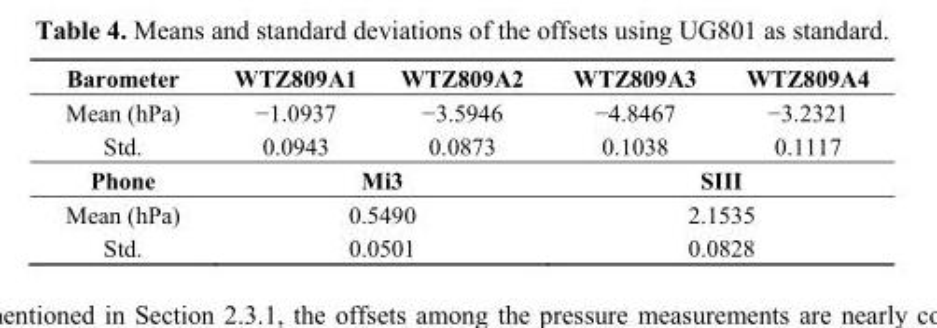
<table><tbody><tr><td>Barometer</td><td>WTZ809A1</td><td>WTZ809A2</td><td>WTZ809A3</td><td>WTZ809A4</td></tr><tr><td>Mean (hPa)</td><td>−1.0937</td><td>−3.5946</td><td>−4.8467</td><td>−3.2321</td></tr><tr><td>Std.</td><td>0.0943</td><td>0.0873</td><td>0.1038</td><td>0.1117</td></tr><tr><td>Phone</td><td colspan="2">Mi3</td><td colspan="2">SIII</td></tr><tr><td>Mean (hPa)</td><td colspan="2">0.5490</td><td colspan="2">2.1535</td></tr><tr><td>Std.</td><td colspan="2">0.0501</td><td colspan="2">0.0828</td></tr></tbody></table>